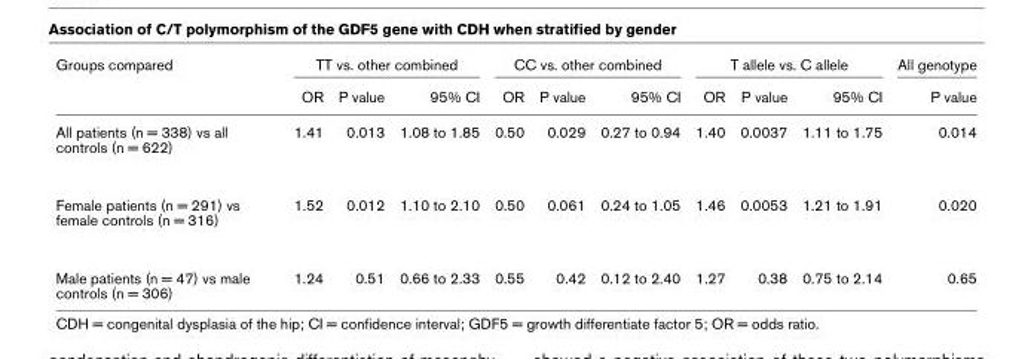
<table><thead><tr><td rowspan="2">Groups compared</td><td colspan="3">TT vs. other combined</td><td colspan="3">CC vs. other combined</td><td colspan="3">T allele vs. C allele</td><td rowspan="2">All genotype P value</td></tr><tr><td>OR</td><td>P value</td><td>95% CI</td><td>OR</td><td>P value</td><td>95% CI</td><td>OR</td><td>P value</td><td>95% CI</td></tr></thead><tbody><tr><td>All patients (n = 338) vs all controls (n = 622)</td><td>1.41</td><td>0.013</td><td>1.08 to 1.85</td><td>0.50</td><td>0.029</td><td>0.27 to 0.94</td><td>1.40</td><td>0.0037</td><td>1.11 to 1.75</td><td>0.014</td></tr><tr><td>Female patients (n = 291) vs female controls (n = 316)</td><td>1.52</td><td>0.012</td><td>1.10 to 2.10</td><td>0.50</td><td>0.061</td><td>0.24 to 1.05</td><td>1.46</td><td>0.0053</td><td>1.21 to 1.91</td><td>0.020</td></tr><tr><td>Male patients (n = 47) vs male controls (n = 306)</td><td>1.24</td><td>0.51</td><td>0.66 to 2.33</td><td>0.55</td><td>0.42</td><td>0.12 to 2.40</td><td>1.27</td><td>0.38</td><td>0.75 to 2.14</td><td>0.65</td></tr></tbody></table>